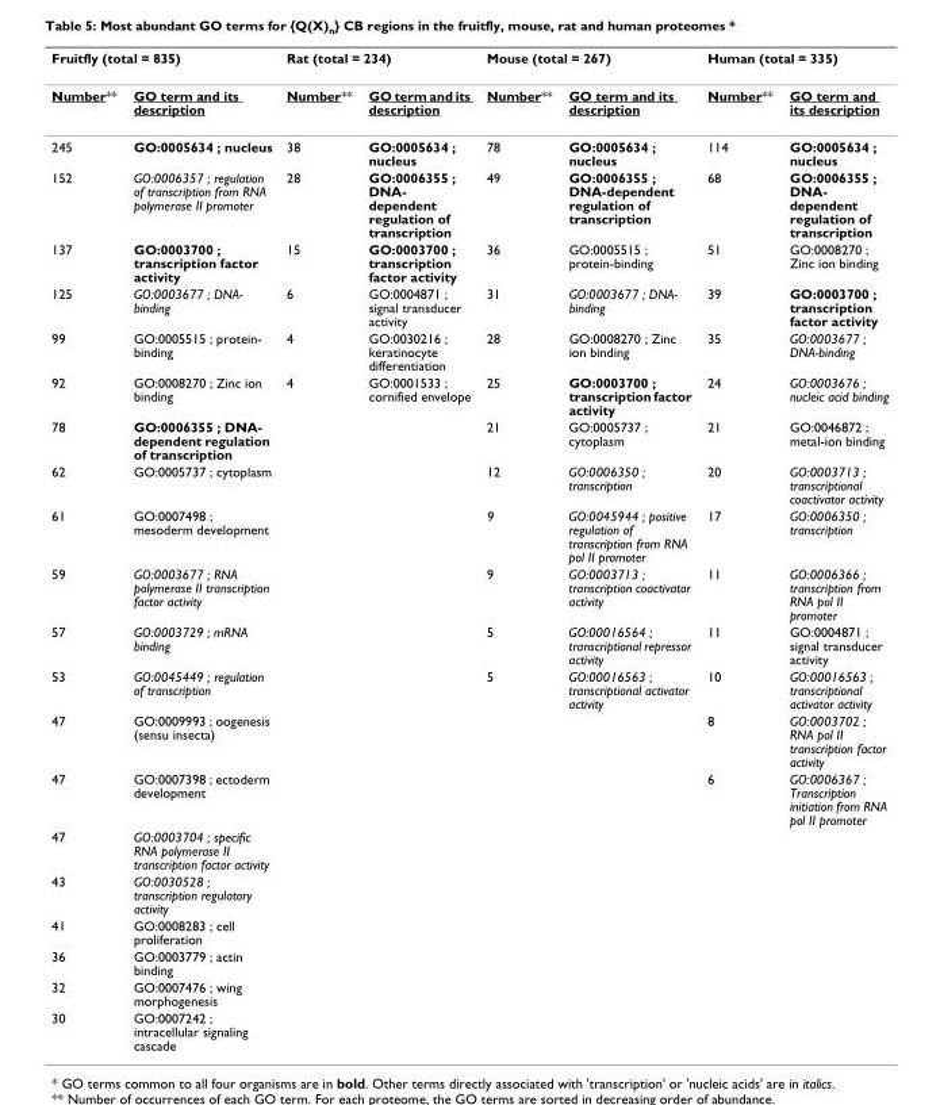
<table><thead><tr><td colspan="2">Fruitfly (total = 835)</td><td colspan="2">Rat (total = 234)</td><td colspan="2">Mouse (total = 267)</td><td colspan="2">Human (total = 335)</td></tr><tr><td>Number**</td><td>GO term and its description</td><td>Number**</td><td>GO term and its description</td><td>Number**</td><td>GO term and its description</td><td>Number**</td><td>GO term and its description</td></tr></thead><tbody><tr><td>245</td><td>GO:0005634 ; nucleus</td><td>38</td><td>GO:0005634 ; nucleus</td><td>78</td><td>GO:0005634 ; nucleus</td><td>114</td><td>GO:0005634 ; nucleus</td></tr><tr><td>152</td><td>GO:0006357 ; regulation of transcription from RNA polymerase II promoter</td><td>28</td><td>GO:0006355 ; DNA- dependent regulation of transcription</td><td>49</td><td>GO:0006355 ; DNA-dependent regulation of transcription</td><td>68</td><td>GO:0006355 ; DNA- dependent regulation of transcription</td></tr><tr><td>137</td><td>GO:0003700 ; transcription factor activity</td><td>15</td><td>GO:0003700 ; transcription factor activity</td><td>36</td><td>GO:0005515 ; protein-binding</td><td>51</td><td>GO:0008270 ; Zinc ion binding</td></tr><tr><td>125</td><td>GO:0003677 ; DNA- binding</td><td>6</td><td>GO:0004871 ; signal transducer activity</td><td>31</td><td>GO:0003677 ; DNA- binding</td><td>39</td><td>GO:0003700 ; transcription factor activity</td></tr><tr><td>99</td><td>GO:0005515 ; protein- binding</td><td>4</td><td>GO:0030216 ; keratinocyte differentiation</td><td>28</td><td>GO:0008270 ; Zinc ion binding</td><td>35</td><td>GO:0003677 ; DNA-binding</td></tr><tr><td>92</td><td>GO:0008270 ; Zinc ion binding</td><td>4</td><td>GO:0001533 ; cornified envelope</td><td>25</td><td>GO:0003700 ; transcription factor activity</td><td>24</td><td>GO:0003676 ; nucleic acid binding</td></tr><tr><td>78</td><td>GO:0006355 ; DNA- dependent regulation of transcription</td><td></td><td></td><td>21</td><td>GO:0005737 ; cytoplasm</td><td>21</td><td>GO:0046872 ; metal-ion binding</td></tr><tr><td>62</td><td>GO:0005737 ; cytoplasm</td><td></td><td></td><td>12</td><td>GO:0006350 ; transcription</td><td>20</td><td>GO:0003713 ; transcriptional coactivator activity</td></tr><tr><td>61</td><td>GO:0007498 ; mesoderm development</td><td></td><td></td><td>9</td><td>GO:0045944 ; positive regulation of transcription from RNA pol II promoter</td><td>17</td><td>GO:0006350 ; transcription</td></tr><tr><td>59</td><td>GO:0003677 ; RNA polymerase II transcription factor activity</td><td></td><td></td><td>9</td><td>GO:0003713 ; transcription coactivator activity</td><td>11</td><td>GO:0006366 ; transcription from RNA pol II promoter</td></tr><tr><td>57</td><td>GO:0003729 ; mRNA binding</td><td></td><td></td><td>5</td><td>GO:00016564 ; transcriptional repressor activity</td><td>11</td><td>GO:0004871 ; signal transducer activity</td></tr><tr><td>53</td><td>GO:0045449 ; regulation of transcription</td><td></td><td></td><td>5</td><td>GO:00016563 ; transcriptional activator activity</td><td>10</td><td>GO:00016563 ; transcriptional activator activity</td></tr><tr><td>47</td><td>GO:0009993 ; oogenesis (sensu insecta)</td><td></td><td></td><td></td><td></td><td>8</td><td>GO:0003702 ; RNA pol II transcription factor activity</td></tr><tr><td>47</td><td>GO:0007398 ; ectoderm development</td><td></td><td></td><td></td><td></td><td>6</td><td>GO:0006367 ; Transcription initiation from RNA pol II promoter</td></tr><tr><td>47</td><td>GO:0003704 ; specific RNA polymerase II transcription factor activity</td><td></td><td></td><td></td><td></td><td></td><td></td></tr><tr><td>43</td><td>GO:0030528 ; transcription regulatory activity</td><td></td><td></td><td></td><td></td><td></td><td></td></tr><tr><td>41</td><td>GO:0008283 ; cell proliferation</td><td></td><td></td><td></td><td></td><td></td><td></td></tr><tr><td>36</td><td>GO:0003779 ; actin binding</td><td></td><td></td><td></td><td></td><td></td><td></td></tr><tr><td>32</td><td>GO:0007476 ; wing morphogenesis</td><td></td><td></td><td></td><td></td><td></td><td></td></tr><tr><td>30</td><td>GO:0007242 ; intracellular signaling cascade</td><td></td><td></td><td></td><td></td><td></td><td></td></tr></tbody></table>